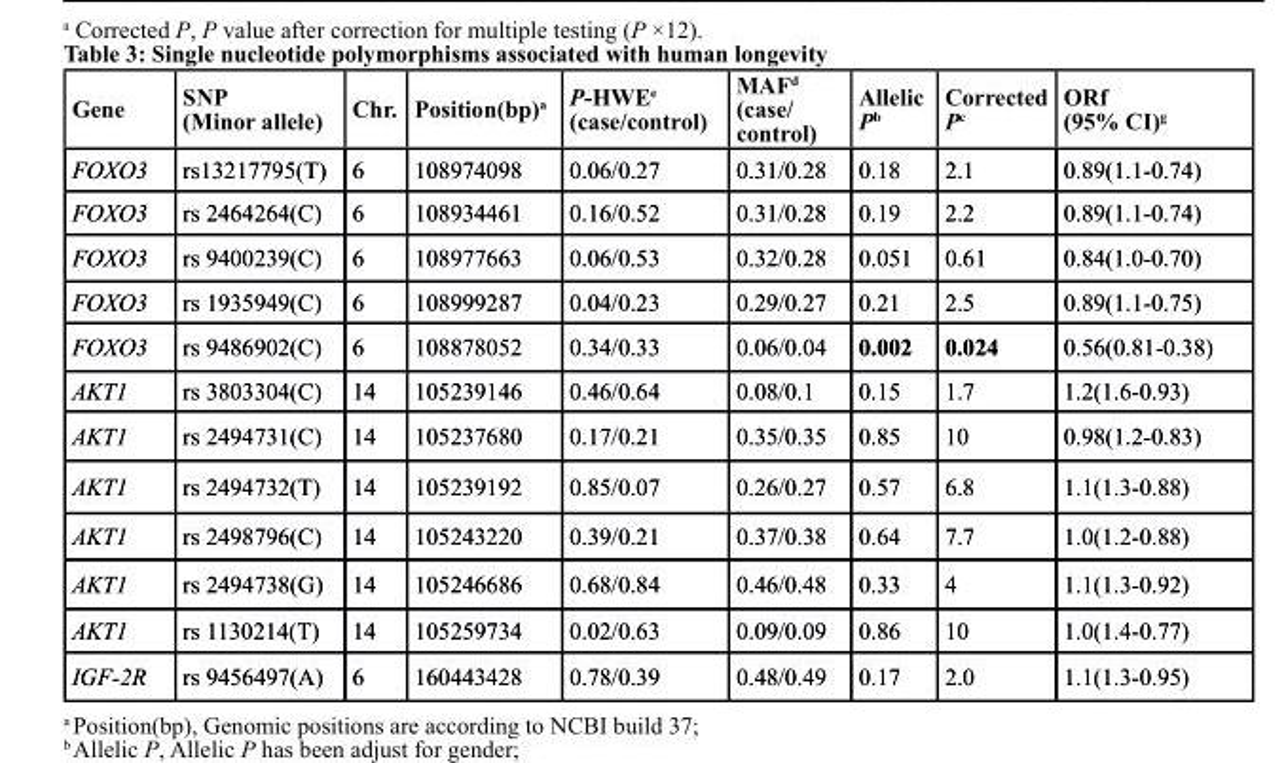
<table><thead><tr><td>Gene</td><td>sNP (Minor allele)</td><td>chr.</td><td>Position(bp)<sup>a</sup></td><td>P-HWE<sup>e</sup> (case/control)</td><td>MAF<sup>d</sup> (case/ control)</td><td>Allelic P<sup>b</sup></td><td>corrected P<sup>c</sup></td><td>Orf (95% cI)<sup>g</sup></td></tr></thead><tbody><tr><td>FOXO3</td><td>rs13217795(T)</td><td>6</td><td>108974098</td><td>0.06/0.27</td><td>0.31/0.28</td><td>0.18</td><td>2.1</td><td>0.89(1.1-0.74)</td></tr><tr><td>FOXO3</td><td>rs 2464264(C)</td><td>6</td><td>108934461</td><td>0.16/0.52</td><td>0.31/0.28</td><td>0.19</td><td>2.2</td><td>0.89(1.1-0.74)</td></tr><tr><td>FOXO3</td><td>rs 9400239(C)</td><td>6</td><td>108977663</td><td>0.06/0.53</td><td>0.32/0.28</td><td>0.051</td><td>0.61</td><td>0.84(1.0-0.70)</td></tr><tr><td>FOXO3</td><td>rs 1935949(C)</td><td>6</td><td>108999287</td><td>0.04/0.23</td><td>0.29/0.27</td><td>0.21</td><td>2.5</td><td>0.89(1.1-0.75)</td></tr><tr><td>FOXO3</td><td>rs 9486902(C)</td><td>6</td><td>108878052</td><td>0.34/0.33</td><td>0.06/0.04</td><td>0.002</td><td>0.024</td><td>0.56(0.81-0.38)</td></tr><tr><td>AKT1</td><td>rs 3803304(C)</td><td>14</td><td>105239146</td><td>0.46/0.64</td><td>0.08/0.1</td><td>0.15</td><td>1.7</td><td>1.2(1.6-0.93)</td></tr><tr><td>AKT1</td><td>rs 2494731(C)</td><td>14</td><td>105237680</td><td>0.17/0.21</td><td>0.35/0.35</td><td>0.85</td><td>10</td><td>0.98(1.2-0.83)</td></tr><tr><td>AKT1</td><td>rs 2494732(T)</td><td>14</td><td>105239192</td><td>0.85/0.07</td><td>0.26/0.27</td><td>0.57</td><td>6.8</td><td>1.1(1.3-0.88)</td></tr><tr><td>AKT1</td><td>rs 2498796(C)</td><td>14</td><td>105243220</td><td>0.39/0.21</td><td>0.37/0.38</td><td>0.64</td><td>7.7</td><td>1.0(1.2-0.88)</td></tr><tr><td>AKT1</td><td>rs 2494738(G)</td><td>14</td><td>105246686</td><td>0.68/0.84</td><td>0.46/0.48</td><td>0.33</td><td>4</td><td>1.1(1.3-0.92)</td></tr><tr><td>AKT1</td><td>rs 1130214(T)</td><td>14</td><td>105259734</td><td>0.02/0.63</td><td>0.09/0.09</td><td>0.86</td><td>10</td><td>1.0(1.4-0.77)</td></tr><tr><td>IGF-2R</td><td>rs 9456497(A)</td><td>6</td><td>160443428</td><td>0.78/0.39</td><td>0.48/0.49</td><td>0.17</td><td>2.0</td><td>1.1(1.3-0.95)</td></tr></tbody></table>